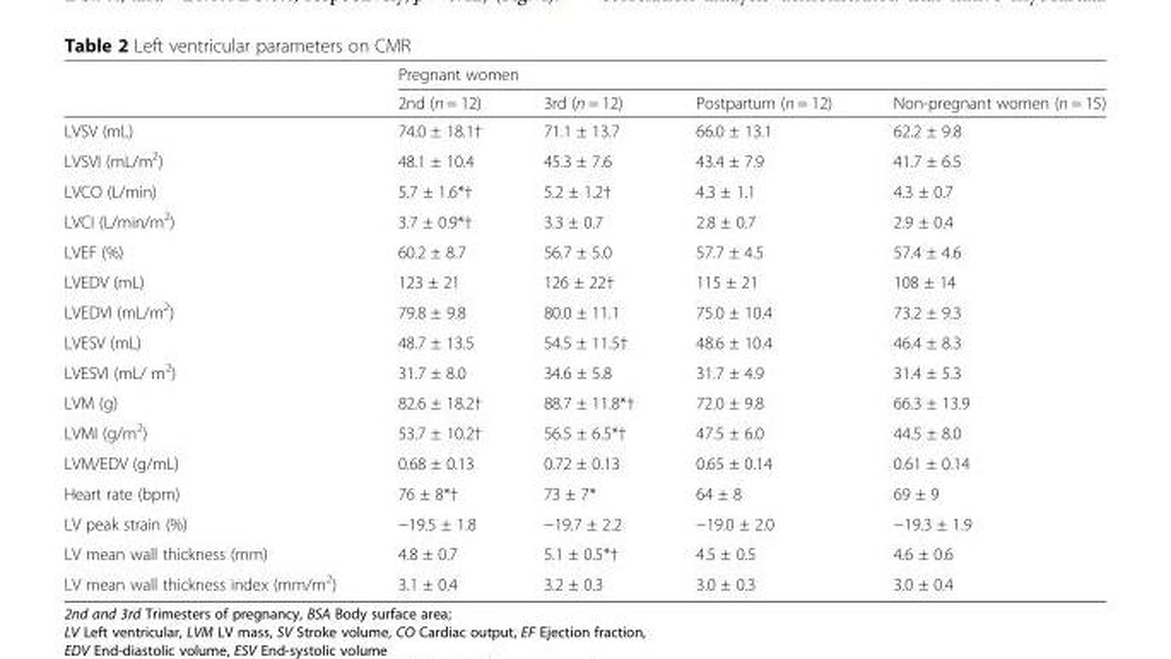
<table><thead><tr><td rowspan="2"></td><td colspan="4">Pregnant women</td></tr><tr><td>2nd (n = 12)</td><td>3rd (n = 12)</td><td>Postpartum (n = 12)</td><td>Non-pregnant women (n = 15)</td></tr></thead><tbody><tr><td>LVSV (mL)</td><td>74.0 ± 18.1†</td><td>71.1 ± 13.7</td><td>66.0 ± 13.1</td><td>62.2 ± 9.8</td></tr><tr><td>LVSVI (mL/m<sup>2</sup>)</td><td>48.1 ± 10.4</td><td>45.3 ± 7.6</td><td>43.4 ± 7.9</td><td>41.7 ± 6.5</td></tr><tr><td>LVCO (L/min)</td><td>5.7 ± 1.6*†</td><td>5.2 ± 1.2†</td><td>4.3 ± 1.1</td><td>4.3 ± 0.7</td></tr><tr><td>LVCI (L/min/m<sup>2</sup>)</td><td>3.7 ± 0.9*†</td><td>3.3 ± 0.7</td><td>2.8 ± 0.7</td><td>2.9 ± 0.4</td></tr><tr><td>LVEF (%)</td><td>60.2 ± 8.7</td><td>56.7 ± 5.0</td><td>57.7 ± 4.5</td><td>57.4 ± 4.6</td></tr><tr><td>LVEDV (mL)</td><td>123 ± 21</td><td>126 ± 22†</td><td>115 ± 21</td><td>108 ± 14</td></tr><tr><td>LVEDVI (mL/m<sup>2</sup>)</td><td>79.8 ± 9.8</td><td>80.0 ± 11.1</td><td>75.0 ± 10.4</td><td>73.2 ± 9.3</td></tr><tr><td>LVESV (mL)</td><td>48.7 ± 13.5</td><td>54.5 ± 11.5†</td><td>48.6 ± 10.4</td><td>46.4 ± 8.3</td></tr><tr><td>LVESVI (mL/ m<sup>2</sup>)</td><td>31.7 ± 8.0</td><td>34.6 ± 5.8</td><td>31.7 ± 4.9</td><td>31.4 ± 5.3</td></tr><tr><td>LVM (g)</td><td>82.6 ± 18.2†</td><td>88.7 ± 11.8*†</td><td>72.0 ± 9.8</td><td>66.3 ± 13.9</td></tr><tr><td>LVMI (g/m<sup>2</sup>)</td><td>53.7 ± 10.2†</td><td>56.5 ± 6.5*†</td><td>47.5 ± 6.0</td><td>44.5 ± 8.0</td></tr><tr><td>LVM/EDV (g/mL)</td><td>0.68 ± 0.13</td><td>0.72 ± 0.13</td><td>0.65 ± 0.14</td><td>0.61 ± 0.14</td></tr><tr><td>Heart rate (bpm)</td><td>76 ± 8*†</td><td>73 ± 7*</td><td>64 ± 8</td><td>69 ± 9</td></tr><tr><td>LV peak strain (%)</td><td>−19.5 ± 1.8</td><td>−19.7 ± 2.2</td><td>−19.0 ± 2.0</td><td>−19.3 ± 1.9</td></tr><tr><td>LV mean wall thickness (mm)</td><td>4.8 ± 0.7</td><td>5.1 ± 0.5*†</td><td>4.5 ± 0.5</td><td>4.6 ± 0.6</td></tr><tr><td>LV mean wall thickness index (mm/m<sup>2</sup>)</td><td>3.1 ± 0.4</td><td>3.2 ± 0.3</td><td>3.0 ± 0.3</td><td>3.0 ± 0.4</td></tr></tbody></table>